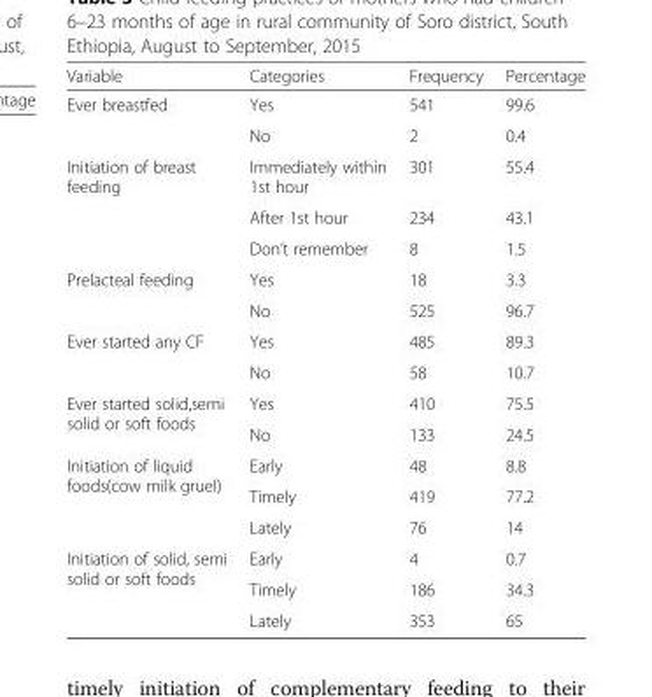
<table><thead><tr><td>Variable</td><td>Categories</td><td>Frequency</td><td>Percentage</td></tr></thead><tbody><tr><td rowspan="2">Ever breastfed</td><td>Yes</td><td>541</td><td>99.6</td></tr><tr><td>No</td><td>2</td><td>0.4</td></tr><tr><td rowspan="3">Initiation of breast feeding</td><td>Immediately within 1st hour</td><td>301</td><td>55.4</td></tr><tr><td>After 1st hour</td><td>234</td><td>43.1</td></tr><tr><td>Don’t remember</td><td>8</td><td>1.5</td></tr><tr><td rowspan="2">Prelacteal feeding</td><td>Yes</td><td>18</td><td>3.3</td></tr><tr><td>No</td><td>525</td><td>96.7</td></tr><tr><td rowspan="2">Ever started any CF</td><td>Yes</td><td>485</td><td>89.3</td></tr><tr><td>No</td><td>58</td><td>10.7</td></tr><tr><td rowspan="2">Ever started solid,semi solid or soft foods</td><td>Yes</td><td>410</td><td>75.5</td></tr><tr><td>No</td><td>133</td><td>24.5</td></tr><tr><td rowspan="3">Initiation of liquid foods(cow milk gruel)</td><td>Early</td><td>48</td><td>8.8</td></tr><tr><td>Timely</td><td>419</td><td>77.2</td></tr><tr><td>Lately</td><td>76</td><td>14</td></tr><tr><td rowspan="3">Initiation of solid, semi solid or soft foods</td><td>Early</td><td>4</td><td>0.7</td></tr><tr><td>Timely</td><td>186</td><td>34.3</td></tr><tr><td>Lately</td><td>353</td><td>65</td></tr></tbody></table>